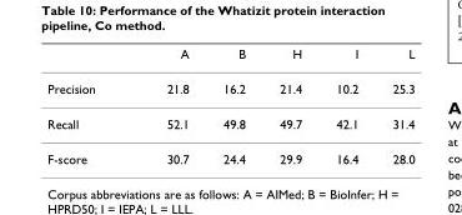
<table><thead><tr><td></td><td>A</td><td>B</td><td>H</td><td>I</td><td>L</td></tr></thead><tbody><tr><td>Precision</td><td>21.8</td><td>16.2</td><td>21.4</td><td>10.2</td><td>25.3</td></tr><tr><td>Recall</td><td>52.1</td><td>49.8</td><td>49.7</td><td>42.1</td><td>31.4</td></tr><tr><td>F-score</td><td>30.7</td><td>24.4</td><td>29.9</td><td>16.4</td><td>28.0</td></tr></tbody></table>